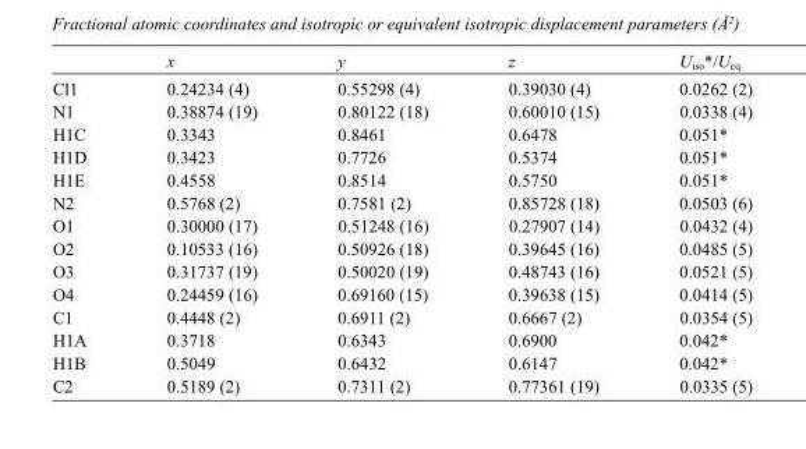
<table><thead><tr><td></td><td>x</td><td>y</td><td>z</td><td>U<sub>iso</sub>*/U<sub>eq</sub></td></tr></thead><tbody><tr><td>Cl1</td><td>0.24234 (4)</td><td>0.55298 (4)</td><td>0.39030 (4)</td><td>0.0262 (2)</td></tr><tr><td>N1</td><td>0.38874 (19)</td><td>0.80122 (18)</td><td>0.60010 (15)</td><td>0.0338 (4)</td></tr><tr><td>H1C</td><td>0.3343</td><td>0.8461</td><td>0.6478</td><td>0.051*</td></tr><tr><td>H1D</td><td>0.3423</td><td>0.7726</td><td>0.5374</td><td>0.051*</td></tr><tr><td>H1E</td><td>0.4558</td><td>0.8514</td><td>0.5750</td><td>0.051*</td></tr><tr><td>N2</td><td>0.5768 (2)</td><td>0.7581 (2)</td><td>0.85728 (18)</td><td>0.0503 (6)</td></tr><tr><td>O1</td><td>0.30000 (17)</td><td>0.51248 (16)</td><td>0.27907 (14)</td><td>0.0432 (4)</td></tr><tr><td>O2</td><td>0.10533 (16)</td><td>0.50926 (18)</td><td>0.39645 (16)</td><td>0.0485 (5)</td></tr><tr><td>O3</td><td>0.31737 (19)</td><td>0.50020 (19)</td><td>0.48743 (16)</td><td>0.0521 (5)</td></tr><tr><td>O4</td><td>0.24459 (16)</td><td>0.69160 (15)</td><td>0.39638 (15)</td><td>0.0414 (5)</td></tr><tr><td>C1</td><td>0.4448 (2)</td><td>0.6911 (2)</td><td>0.6667 (2)</td><td>0.0354 (5)</td></tr><tr><td>H1A</td><td>0.3718</td><td>0.6343</td><td>0.6900</td><td>0.042*</td></tr><tr><td>H1B</td><td>0.5049</td><td>0.6432</td><td>0.6147</td><td>0.042*</td></tr><tr><td>C2</td><td>0.5189 (2)</td><td>0.7311 (2)</td><td>0.77361 (19)</td><td>0.0335 (5)</td></tr></tbody></table>